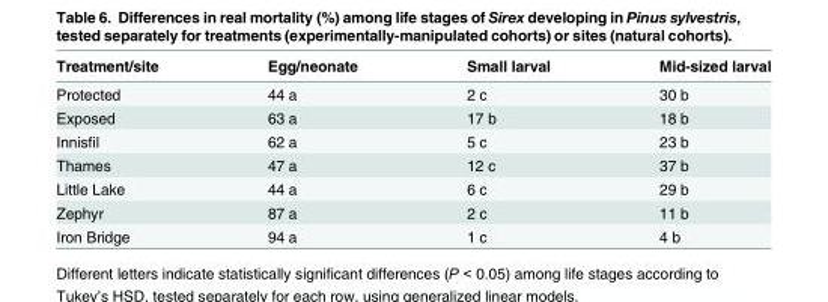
<table><thead><tr><td>Treatment/site</td><td>Egg/neonate</td><td>Small larval</td><td>Mid-sized larval</td></tr></thead><tbody><tr><td>Protected</td><td>44 a</td><td>2 c</td><td>30 b</td></tr><tr><td>Exposed</td><td>63 a</td><td>17 b</td><td>18 b</td></tr><tr><td>Innisfil</td><td>62 a</td><td>5 c</td><td>23 b</td></tr><tr><td>Thames</td><td>47 a</td><td>12 c</td><td>37 b</td></tr><tr><td>Little Lake</td><td>44 a</td><td>6 c</td><td>29 b</td></tr><tr><td>Zephyr</td><td>87 a</td><td>2 c</td><td>11 b</td></tr><tr><td>Iron Bridge</td><td>94 a</td><td>1 c</td><td>4 b</td></tr></tbody></table>